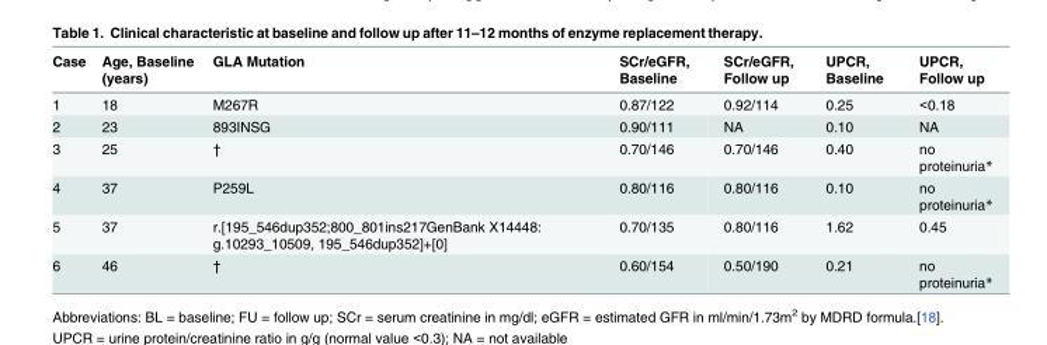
<table><thead><tr><td>Case</td><td>Age, Baseline (years)</td><td>GLA Mutation</td><td>SCr/eGFR, Baseline</td><td>SCr/eGFR, Follow up</td><td>UPCR, Baseline</td><td>UPCR, Follow up</td></tr></thead><tbody><tr><td>1</td><td>18</td><td>M267R</td><td>0.87/122</td><td>0.92/114</td><td>0.25</td><td>&lt;0.18</td></tr><tr><td>2</td><td>23</td><td>893INSG</td><td>0.90/111</td><td>NA</td><td>0.10</td><td>NA</td></tr><tr><td>3</td><td>25</td><td>†</td><td>0.70/146</td><td>0.70/146</td><td>0.40</td><td>no proteinuria*</td></tr><tr><td>4</td><td>37</td><td>P259L</td><td>0.80/116</td><td>0.80/116</td><td>0.10</td><td>no proteinuria*</td></tr><tr><td>5</td><td>37</td><td>r.[195_546dup352;800_801ins217GenBank X14448: g.10293_10509, 195_546dup352]+[0]</td><td>0.70/135</td><td>0.80/116</td><td>1.62</td><td>0.45</td></tr><tr><td>6</td><td>46</td><td>†</td><td>0.60/154</td><td>0.50/190</td><td>0.21</td><td>no proteinuria*</td></tr></tbody></table>